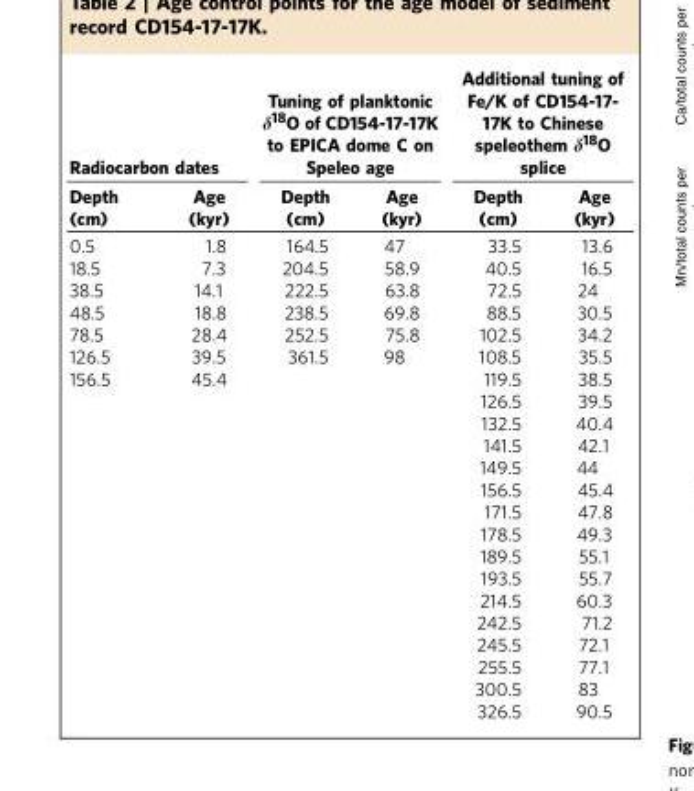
<table><thead><tr><td colspan="2">Radiocarbon dates</td><td colspan="2">Tuning of planktonic δ<sup>18</sup>O of CD154-17-17K to EPICA dome C on Speleo age</td><td colspan="2">Additional tuning of Fe/K of CD154-17- 17K to Chinese speleothem δ<sup>18</sup>O splice</td></tr><tr><td>Depth (cm)</td><td>Age (kyr)</td><td>Depth (cm)</td><td>Age (kyr)</td><td>Depth (cm)</td><td>Age (kyr)</td></tr></thead><tbody><tr><td>0.5</td><td>1.8</td><td>164.5</td><td>47</td><td>33.5</td><td>13.6</td></tr><tr><td>18.5</td><td>7.3</td><td>204.5</td><td>58.9</td><td>40.5</td><td>16.5</td></tr><tr><td>38.5</td><td>14.1</td><td>222.5</td><td>63.8</td><td>72.5</td><td>24</td></tr><tr><td>48.5</td><td>18.8</td><td>238.5</td><td>69.8</td><td>88.5</td><td>30.5</td></tr><tr><td>78.5</td><td>28.4</td><td>252.5</td><td>75.8</td><td>102.5</td><td>34.2</td></tr><tr><td>126.5</td><td>39.5</td><td>361.5</td><td>98</td><td>108.5</td><td>35.5</td></tr><tr><td rowspan="16">156.5</td><td>45.4</td><td></td><td></td><td>119.5</td><td>38.5</td></tr><tr><td></td><td></td><td></td><td>126.5</td><td>39.5</td></tr><tr><td></td><td></td><td></td><td>132.5</td><td>40.4</td></tr><tr><td></td><td></td><td></td><td>141.5</td><td>42.1</td></tr><tr><td></td><td></td><td></td><td>149.5</td><td>44</td></tr><tr><td></td><td></td><td></td><td>156.5</td><td>45.4</td></tr><tr><td></td><td></td><td></td><td>171.5</td><td>47.8</td></tr><tr><td></td><td></td><td></td><td>178.5</td><td>49.3</td></tr><tr><td></td><td></td><td></td><td>189.5</td><td>55.1</td></tr><tr><td></td><td></td><td></td><td>193.5</td><td>55.7</td></tr><tr><td></td><td></td><td></td><td>214.5</td><td>60.3</td></tr><tr><td></td><td></td><td></td><td>242.5</td><td>71.2</td></tr><tr><td></td><td></td><td></td><td>245.5</td><td>72.1</td></tr><tr><td></td><td></td><td></td><td>255.5</td><td>77.1</td></tr><tr><td></td><td></td><td></td><td>300.5</td><td>83</td></tr><tr><td></td><td></td><td></td><td>326.5</td><td>90.5</td></tr></tbody></table>